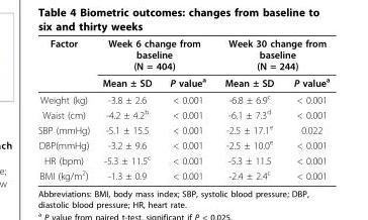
<table><thead><tr><td rowspan="2">Factor</td><td colspan="2">Week 6 change from baseline (N = 404)</td><td colspan="2">Week 30 change from baseline (N = 244)</td></tr><tr><td>Mean ± SD</td><td>P value<sup>a</sup></td><td>Mean ± SD</td><td>P value<sup>a</sup></td></tr></thead><tbody><tr><td>Weight (kg)</td><td>-3.8 ± 2.6</td><td>&lt; 0.001</td><td>-6.8 ± 6.9<sup>c</sup></td><td>&lt; 0.001</td></tr><tr><td>Waist (cm)</td><td>-4.2 ± 4.2<sup>b</sup></td><td>&lt; 0.001</td><td>-6.1 ± 7.3<sup>d</sup></td><td>&lt; 0.001</td></tr><tr><td>SBP (mmHg)</td><td>-5.1 ± 15.5</td><td>&lt; 0.001</td><td>-2.5 ± 17.1<sup>e</sup></td><td>0.022</td></tr><tr><td>DBP(mmHg)</td><td>-3.2 ± 9.6</td><td>&lt; 0.001</td><td>-2.5 ± 10.0<sup>e</sup></td><td>&lt; 0.001</td></tr><tr><td>HR (bpm)</td><td>-5.3 ± 11.5<sup>c</sup></td><td>&lt; 0.001</td><td>-5.3 ± 11.5</td><td>&lt; 0.001</td></tr><tr><td>BMI (kg/m<sup>2</sup>)</td><td>-1.3 ± 0.9</td><td>&lt; 0.001</td><td>-2.4 ± 2.4<sup>c</sup></td><td>&lt; 0.001</td></tr></tbody></table>